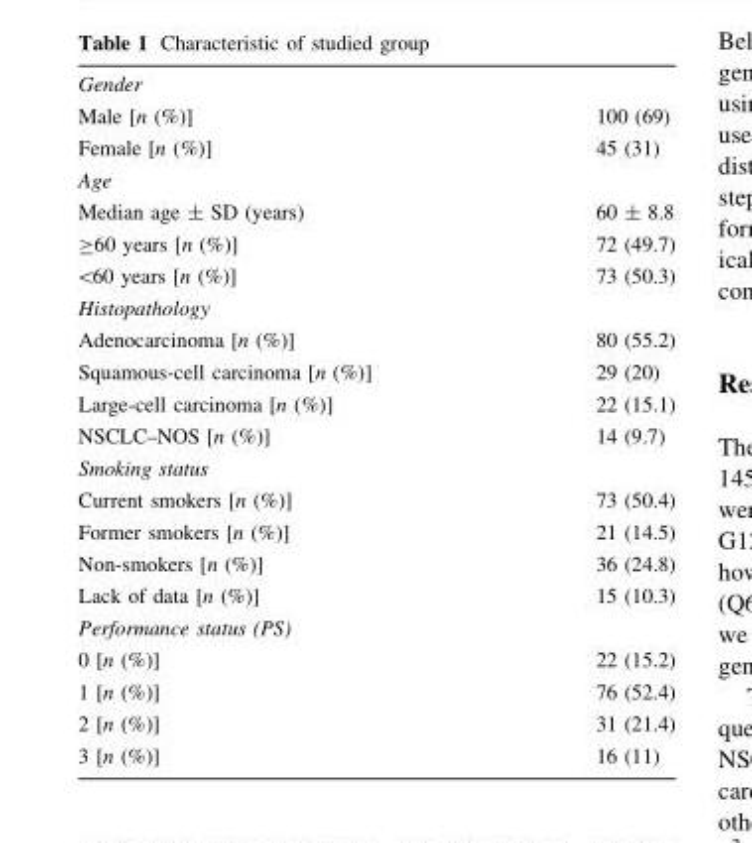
<table><tbody><tr><td colspan="2">Gender</td></tr><tr><td>Male [n (%)]</td><td>100 (69)</td></tr><tr><td>Female [n (%)]</td><td>45 (31)</td></tr><tr><td colspan="2">Age</td></tr><tr><td>Median age ± SD (years)</td><td>60 ± 8.8</td></tr><tr><td>≥60 years [n (%)]</td><td>72 (49.7)</td></tr><tr><td>&lt;60 years [n (%)]</td><td>73 (50.3)</td></tr><tr><td colspan="2">Histopathology</td></tr><tr><td>Adenocarcinoma [n (%)]</td><td>80 (55.2)</td></tr><tr><td>Squamous-cell carcinoma [n (%)]</td><td>29 (20)</td></tr><tr><td>Large-cell carcinoma [n (%)]</td><td>22 (15.1)</td></tr><tr><td>NSCLC–NOS [n (%)]</td><td>14 (9.7)</td></tr><tr><td colspan="2">Smoking status</td></tr><tr><td>Current smokers [n (%)]</td><td>73 (50.4)</td></tr><tr><td>Former smokers [n (%)]</td><td>21 (14.5)</td></tr><tr><td>Non-smokers [n (%)]</td><td>36 (24.8)</td></tr><tr><td>Lack of data [n (%)]</td><td>15 (10.3)</td></tr><tr><td colspan="2">Performance status (PS)</td></tr><tr><td>0 [n (%)]</td><td>22 (15.2)</td></tr><tr><td>1 [n (%)]</td><td>76 (52.4)</td></tr><tr><td>2 [n (%)]</td><td>31 (21.4)</td></tr><tr><td>3 [n (%)]</td><td>16 (11)</td></tr></tbody></table>